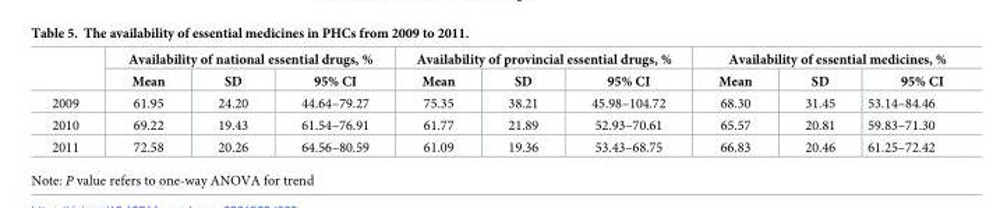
<table><thead><tr><td rowspan="2"></td><td colspan="3">Availability of national essential drugs, %</td><td colspan="3">Availability of provincial essential drugs, %</td><td colspan="3">Availability of essential medicines, %</td></tr><tr><td>Mean</td><td>SD</td><td>95% CI</td><td>Mean</td><td>SD</td><td>95% CI</td><td>Mean</td><td>SD</td><td>95% CI</td></tr></thead><tbody><tr><td>2009</td><td>61.95</td><td>24.20</td><td>44.64–79.27</td><td>75.35</td><td>38.21</td><td>45.98–104.72</td><td>68.30</td><td>31.45</td><td>53.14–84.46</td></tr><tr><td>2010</td><td>69.22</td><td>19.43</td><td>61.54–76.91</td><td>61.77</td><td>21.89</td><td>52.93–70.61</td><td>65.57</td><td>20.81</td><td>59.83–71.30</td></tr><tr><td>2011</td><td>72.58</td><td>20.26</td><td>64.56–80.59</td><td>61.09</td><td>19.36</td><td>53.43–68.75</td><td>66.83</td><td>20.46</td><td>61.25–72.42</td></tr></tbody></table>